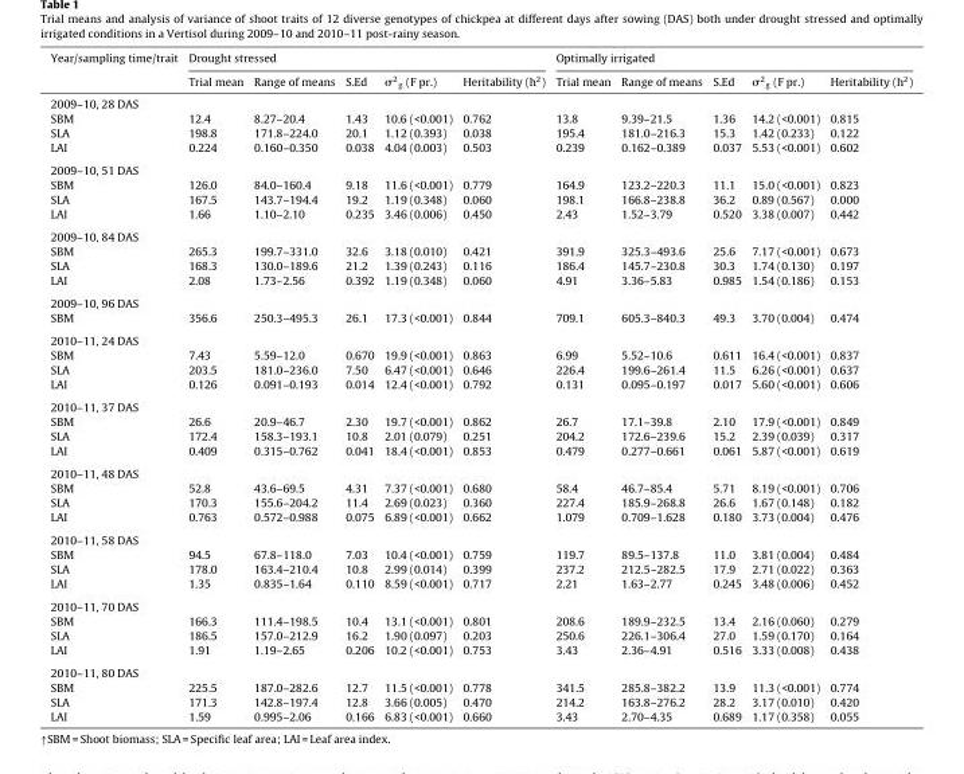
<table><thead><tr><td rowspan="2">Year/sampling time/trait</td><td colspan="5">Drought stressed</td><td colspan="5">Optimally irrigated</td></tr><tr><td>Trial mean</td><td>Range of means</td><td>S.Ed</td><td>σ<sup>2</sup><sub>g</sub> (F pr.)</td><td>Heritability (h<sup>2</sup>)</td><td>Trial mean</td><td>Range of means</td><td>S.Ed</td><td>σ<sup>2</sup><sub>g</sub> (F pr.)</td><td>Heritability (h<sup>2</sup>)</td></tr></thead><tbody><tr><td colspan="11">2009–10, 28 DAS</td></tr><tr><td>SBM</td><td>12.4</td><td>8.27–20.4</td><td>1.43</td><td>10.6 (&lt;0.001)</td><td>0.762</td><td>13.8</td><td>9.39–21.5</td><td>1.36</td><td>14.2 (&lt;0.001)</td><td>0.815</td></tr><tr><td>SLA</td><td>198.8</td><td>171.8–224.0</td><td>20.1</td><td>1.12 (0.393)</td><td>0.038</td><td>195.4</td><td>181.0–216.3</td><td>15.3</td><td>1.42 (0.233)</td><td>0.122</td></tr><tr><td>LAI</td><td>0.224</td><td>0.160–0.350</td><td>0.038</td><td>4.04 (0.003)</td><td>0.503</td><td>0.239</td><td>0.162–0.389</td><td>0.037</td><td>5.53 (&lt;0.001)</td><td>0.602</td></tr><tr><td colspan="11">2009–10, 51 DAS</td></tr><tr><td>SBM</td><td>126.0</td><td>84.0–160.4</td><td>9.18</td><td>11.6 (&lt;0.001)</td><td>0.779</td><td>164.9</td><td>123.2–220.3</td><td>11.1</td><td>15.0 (&lt;0.001)</td><td>0.823</td></tr><tr><td>SLA</td><td>167.5</td><td>143.7–194.4</td><td>19.2</td><td>1.19 (0.348)</td><td>0.060</td><td>198.1</td><td>166.8–238.8</td><td>36.2</td><td>0.89 (0.567)</td><td>0.000</td></tr><tr><td>LAI</td><td>1.66</td><td>1.10–2.10</td><td>0.235</td><td>3.46 (0.006)</td><td>0.450</td><td>2.43</td><td>1.52–3.79</td><td>0.520</td><td>3.38 (0.007)</td><td>0.442</td></tr><tr><td colspan="11">2009–10, 84 DAS</td></tr><tr><td>SBM</td><td>265.3</td><td>199.7–331.0</td><td>32.6</td><td>3.18 (0.010)</td><td>0.421</td><td>391.9</td><td>325.3–493.6</td><td>25.6</td><td>7.17 (&lt;0.001)</td><td>0.673</td></tr><tr><td>SLA</td><td>168.3</td><td>130.0–189.6</td><td>21.2</td><td>1.39 (0.243)</td><td>0.116</td><td>186.4</td><td>145.7–230.8</td><td>30.3</td><td>1.74 (0.130)</td><td>0.197</td></tr><tr><td>LAI</td><td>2.08</td><td>1.73–2.56</td><td>0.392</td><td>1.19 (0.348)</td><td>0.060</td><td>4.91</td><td>3.36–5.83</td><td>0.985</td><td>1.54 (0.186)</td><td>0.153</td></tr><tr><td colspan="11">2009–10, 96 DAS</td></tr><tr><td>SBM</td><td>356.6</td><td>250.3–495.3</td><td>26.1</td><td>17.3 (&lt;0.001)</td><td>0.844</td><td>709.1</td><td>605.3–840.3</td><td>49.3</td><td>3.70 (0.004)</td><td>0.474</td></tr><tr><td colspan="11">2010–11, 24 DAS</td></tr><tr><td>SBM</td><td>7.43</td><td>5.59–12.0</td><td>0.670</td><td>19.9 (&lt;0.001)</td><td>0.863</td><td>6.99</td><td>5.52–10.6</td><td>0.611</td><td>16.4 (&lt;0.001)</td><td>0.837</td></tr><tr><td>SLA</td><td>203.5</td><td>181.0–236.0</td><td>7.50</td><td>6.47 (&lt;0.001)</td><td>0.646</td><td>226.4</td><td>199.6–261.4</td><td>11.5</td><td>6.26 (&lt;0.001)</td><td>0.637</td></tr><tr><td>LAI</td><td>0.126</td><td>0.091–0.193</td><td>0.014</td><td>12.4 (&lt;0.001)</td><td>0.792</td><td>0.131</td><td>0.095–0.197</td><td>0.017</td><td>5.60 (&lt;0.001)</td><td>0.606</td></tr><tr><td colspan="11">2010–11, 37 DAS</td></tr><tr><td>SBM</td><td>26.6</td><td>20.9–46.7</td><td>2.30</td><td>19.7 (&lt;0.001)</td><td>0.862</td><td>26.7</td><td>17.1–39.8</td><td>2.10</td><td>17.9 (&lt;0.001)</td><td>0.849</td></tr><tr><td>SLA</td><td>172.4</td><td>158.3–193.1</td><td>10.8</td><td>2.01 (0.079)</td><td>0.251</td><td>204.2</td><td>172.6–239.6</td><td>15.2</td><td>2.39 (0.039)</td><td>0.317</td></tr><tr><td>LAI</td><td>0.409</td><td>0.315–0.762</td><td>0.041</td><td>18.4 (&lt;0.001)</td><td>0.853</td><td>0.479</td><td>0.277–0.661</td><td>0.061</td><td>5.87 (&lt;0.001)</td><td>0.619</td></tr><tr><td colspan="11">2010–11, 48 DAS</td></tr><tr><td>SBM</td><td>52.8</td><td>43.6–69.5</td><td>4.31</td><td>7.37 (&lt;0.001)</td><td>0.680</td><td>58.4</td><td>46.7–85.4</td><td>5.71</td><td>8.19 (&lt;0.001)</td><td>0.706</td></tr><tr><td>SLA</td><td>170.3</td><td>155.6–204.2</td><td>11.4</td><td>2.69 (0.023)</td><td>0.360</td><td>227.4</td><td>185.9–268.8</td><td>26.6</td><td>1.67 (0.148)</td><td>0.182</td></tr><tr><td>LAI</td><td>0.763</td><td>0.572–0.988</td><td>0.075</td><td>6.89 (&lt;0.001)</td><td>0.662</td><td>1.079</td><td>0.709–1.628</td><td>0.180</td><td>3.73 (0.004)</td><td>0.476</td></tr><tr><td colspan="11">2010–11, 58 DAS</td></tr><tr><td>SBM</td><td>94.5</td><td>67.8–118.0</td><td>7.03</td><td>10.4 (&lt;0.001)</td><td>0.759</td><td>119.7</td><td>89.5–137.8</td><td>11.0</td><td>3.81 (0.004)</td><td>0.484</td></tr><tr><td>SLA</td><td>178.0</td><td>163.4–210.4</td><td>10.8</td><td>2.99 (0.014)</td><td>0.399</td><td>237.2</td><td>212.5–282.5</td><td>17.9</td><td>2.71 (0.022)</td><td>0.363</td></tr><tr><td>LAI</td><td>1.35</td><td>0.835–1.64</td><td>0.110</td><td>8.59 (&lt;0.001)</td><td>0.717</td><td>2.21</td><td>1.63–2.77</td><td>0.245</td><td>3.48 (0.006)</td><td>0.452</td></tr><tr><td colspan="11">2010–11, 70 DAS</td></tr><tr><td>SBM</td><td>166.3</td><td>111.4–198.5</td><td>10.4</td><td>13.1 (&lt;0.001)</td><td>0.801</td><td>208.6</td><td>189.9–232.5</td><td>13.4</td><td>2.16 (0.060)</td><td>0.279</td></tr><tr><td>SLA</td><td>186.5</td><td>157.0–212.9</td><td>16.2</td><td>1.90 (0.097)</td><td>0.203</td><td>250.6</td><td>226.1–306.4</td><td>27.0</td><td>1.59 (0.170)</td><td>0.164</td></tr><tr><td>LAI</td><td>1.91</td><td>1.19–2.65</td><td>0.206</td><td>10.2 (&lt;0.001)</td><td>0.753</td><td>3.43</td><td>2.36–4.91</td><td>0.516</td><td>3.33 (0.008)</td><td>0.438</td></tr><tr><td colspan="11">2010–11, 80 DAS</td></tr><tr><td>SBM</td><td>225.5</td><td>187.0–282.6</td><td>12.7</td><td>11.5 (&lt;0.001)</td><td>0.778</td><td>341.5</td><td>285.8–382.2</td><td>13.9</td><td>11.3 (&lt;0.001)</td><td>0.774</td></tr><tr><td>SLA</td><td>171.3</td><td>142.8–197.4</td><td>12.8</td><td>3.66 (0.005)</td><td>0.470</td><td>214.2</td><td>163.8–276.2</td><td>28.2</td><td>3.17 (0.010)</td><td>0.420</td></tr><tr><td>LAI</td><td>1.59</td><td>0.995–2.06</td><td>0.166</td><td>6.83 (&lt;0.001)</td><td>0.660</td><td>3.43</td><td>2.70–4.35</td><td>0.689</td><td>1.17 (0.358)</td><td>0.055</td></tr></tbody></table>